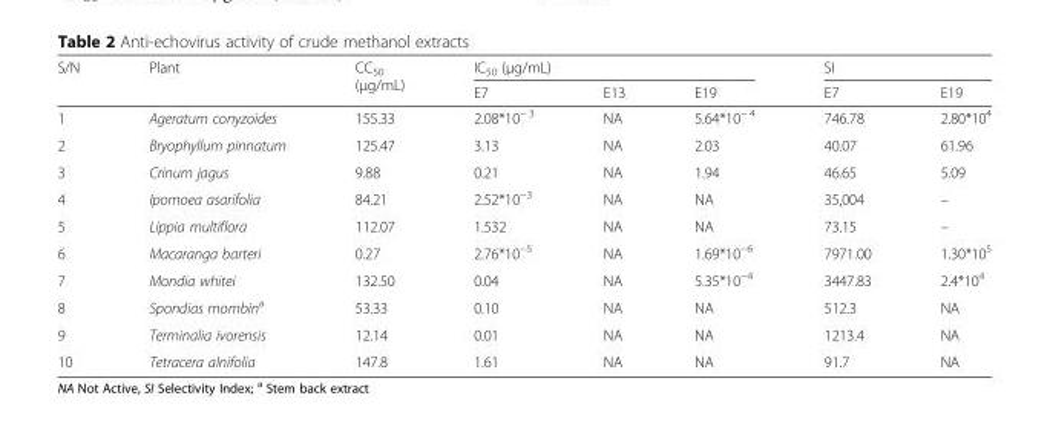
<table><thead><tr><td rowspan="2">S/N</td><td rowspan="2">Plant</td><td rowspan="2">CC<sub>50</sub> (μg/mL)</td><td colspan="3">IC<sub>50</sub> (μg/mL)</td><td colspan="2">SI</td></tr><tr><td>E7</td><td>E13</td><td>E19</td><td>E7</td><td>E19</td></tr></thead><tbody><tr><td>1</td><td>Ageratum conyzoides</td><td>155.33</td><td>2.08*10<sup>− 3</sup></td><td>NA</td><td>5.64*10<sup>− 4</sup></td><td>746.78</td><td>2.80*10<sup>4</sup></td></tr><tr><td>2</td><td>Bryophyllum pinnatum</td><td>125.47</td><td>3.13</td><td>NA</td><td>2.03</td><td>40.07</td><td>61.96</td></tr><tr><td>3</td><td>Crinum jagus</td><td>9.88</td><td>0.21</td><td>NA</td><td>1.94</td><td>46.65</td><td>5.09</td></tr><tr><td>4</td><td>Ipomoea asarifolia</td><td>84.21</td><td>2.52*10<sup>−3</sup></td><td>NA</td><td>NA</td><td>35,004</td><td>–</td></tr><tr><td>5</td><td>Lippia multiflora</td><td>112.07</td><td>1.532</td><td>NA</td><td>NA</td><td>73.15</td><td>–</td></tr><tr><td>6</td><td>Macaranga barteri</td><td>0.27</td><td>2.76*10<sup>−5</sup></td><td>NA</td><td>1.69*10<sup>−6</sup></td><td>7971.00</td><td>1.30*10<sup>5</sup></td></tr><tr><td>7</td><td>Mondia whitei</td><td>132.50</td><td>0.04</td><td>NA</td><td>5.35*10<sup>−4</sup></td><td>3447.83</td><td>2.4*10<sup>4</sup></td></tr><tr><td>8</td><td>Spondias mombin<sup>a</sup></td><td>53.33</td><td>0.10</td><td>NA</td><td>NA</td><td>512.3</td><td>NA</td></tr><tr><td>9</td><td>Terminalia ivorensis</td><td>12.14</td><td>0.01</td><td>NA</td><td>NA</td><td>1213.4</td><td>NA</td></tr><tr><td>10</td><td>Tetracera alnifolia</td><td>147.8</td><td>1.61</td><td>NA</td><td>NA</td><td>91.7</td><td>NA</td></tr></tbody></table>